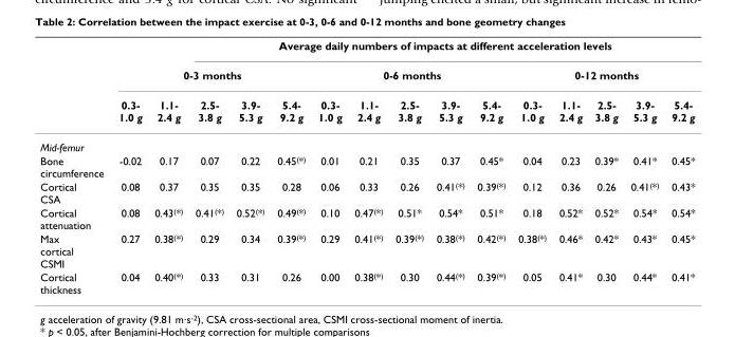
<table><thead><tr><td rowspan="3"></td><td></td><td></td><td colspan="13">Average daily numbers of impacts at different acceleration levels</td></tr><tr><td colspan="5">0-3 months</td><td colspan="5">0-6 months</td><td colspan="5">0-12 months</td></tr><tr><td>0.3- 1.0 g</td><td>1.1- 2.4 g</td><td>2.5- 3.8 g</td><td>3.9- 5.3 g</td><td>5.4- 9.2 g</td><td>0.3- 1.0 g</td><td>1.1- 2.4 g</td><td>2.5- 3.8 g</td><td>3.9- 5.3 g</td><td>5.4- 9.2 g</td><td>0.3- 1.0 g</td><td>1.1- 2.4 g</td><td>2.5- 3.8 g</td><td>3.9- 5.3 g</td><td>5.4- 9.2 g</td></tr></thead><tbody><tr><td colspan="16">Mid-femur</td></tr><tr><td>Bone circumference</td><td>-0.02</td><td>0.17</td><td>0.07</td><td>0.22</td><td>0.45<sup>(</sup>*<sup>)</sup></td><td>0.01</td><td>0.21</td><td>0.35</td><td>0.37</td><td>0.45*</td><td>0.04</td><td>0.23</td><td>0.39*</td><td>0.41*</td><td>0.45*</td></tr><tr><td>Cortical CSA</td><td>0.08</td><td>0.37</td><td>0.35</td><td>0.35</td><td>0.28</td><td>0.06</td><td>0.33</td><td>0.26</td><td>0.41<sup>(</sup>*<sup>)</sup></td><td>0.39<sup>(</sup>*<sup>)</sup></td><td>0.12</td><td>0.36</td><td>0.26</td><td>0.41<sup>(</sup>*<sup>)</sup></td><td>0.43*</td></tr><tr><td>Cortical attenuation</td><td>0.08</td><td>0.43<sup>(</sup>*<sup>)</sup></td><td>0.41<sup>(</sup>*<sup>)</sup></td><td>0.52<sup>(</sup>*<sup>)</sup></td><td>0.49<sup>(</sup>*<sup>)</sup></td><td>0.10</td><td>0.47<sup>(</sup>*<sup>)</sup></td><td>0.51*</td><td>0.54*</td><td>0.51*</td><td>0.18</td><td>0.52*</td><td>0.52*</td><td>0.54*</td><td>0.54*</td></tr><tr><td>Max cortical CSMI</td><td>0.27</td><td>0.38<sup>(</sup>*<sup>)</sup></td><td>0.29</td><td>0.34</td><td>0.39<sup>(</sup>*<sup>)</sup></td><td>0.29</td><td>0.41<sup>(</sup>*<sup>)</sup></td><td>0.39<sup>(</sup>*<sup>)</sup></td><td>0.38<sup>(</sup>*<sup>)</sup></td><td>0.42<sup>(</sup>*<sup>)</sup></td><td>0.38<sup>(</sup>*<sup>)</sup></td><td>0.46*</td><td>0.42*</td><td>0.43*</td><td>0.45*</td></tr><tr><td>Cortical thickness</td><td>0.04</td><td>0.40<sup>(</sup>*<sup>)</sup></td><td>0.33</td><td>0.31</td><td>0.26</td><td>0.00</td><td>0.38<sup>(</sup>*<sup>)</sup></td><td>0.30</td><td>0.44<sup>(</sup>*<sup>)</sup></td><td>0.39<sup>(</sup>*<sup>)</sup></td><td>0.05</td><td>0.41*</td><td>0.30</td><td>0.44*</td><td>0.41*</td></tr></tbody></table>